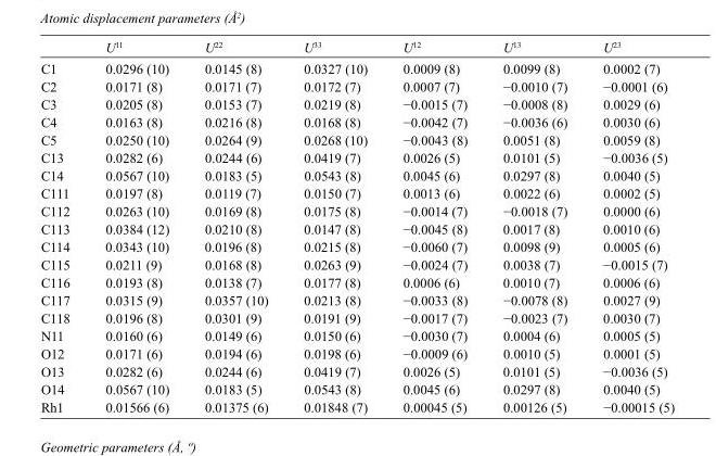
<table><thead><tr><td></td><td>U<sup>11</sup></td><td>U<sup>22</sup></td><td>U<sup>33</sup></td><td>U<sup>12</sup></td><td>U<sup>13</sup></td><td>U<sup>23</sup></td></tr></thead><tbody><tr><td>C1</td><td>0.0296 (10)</td><td>0.0145 (8)</td><td>0.0327 (10)</td><td>0.0009 (8)</td><td>0.0099 (8)</td><td>0.0002 (7)</td></tr><tr><td>C2</td><td>0.0171 (8)</td><td>0.0171 (7)</td><td>0.0172 (7)</td><td>0.0007 (7)</td><td>−0.0010 (7)</td><td>−0.0001 (6)</td></tr><tr><td>C3</td><td>0.0205 (8)</td><td>0.0153 (7)</td><td>0.0219 (8)</td><td>−0.0015 (7)</td><td>−0.0008 (8)</td><td>0.0029 (6)</td></tr><tr><td>C4</td><td>0.0163 (8)</td><td>0.0216 (8)</td><td>0.0168 (8)</td><td>−0.0042 (7)</td><td>−0.0036 (6)</td><td>0.0030 (6)</td></tr><tr><td>C5</td><td>0.0250 (10)</td><td>0.0264 (9)</td><td>0.0268 (10)</td><td>−0.0043 (8)</td><td>0.0051 (8)</td><td>0.0059 (8)</td></tr><tr><td>C13</td><td>0.0282 (6)</td><td>0.0244 (6)</td><td>0.0419 (7)</td><td>0.0026 (5)</td><td>0.0101 (5)</td><td>−0.0036 (5)</td></tr><tr><td>C14</td><td>0.0567 (10)</td><td>0.0183 (5)</td><td>0.0543 (8)</td><td>0.0045 (6)</td><td>0.0297 (8)</td><td>0.0040 (5)</td></tr><tr><td>C111</td><td>0.0197 (8)</td><td>0.0119 (7)</td><td>0.0150 (7)</td><td>0.0013 (6)</td><td>0.0022 (6)</td><td>0.0002 (5)</td></tr><tr><td>C112</td><td>0.0263 (10)</td><td>0.0169 (8)</td><td>0.0175 (8)</td><td>−0.0014 (7)</td><td>−0.0018 (7)</td><td>0.0000 (6)</td></tr><tr><td>C113</td><td>0.0384 (12)</td><td>0.0210 (8)</td><td>0.0147 (8)</td><td>−0.0045 (8)</td><td>0.0017 (8)</td><td>0.0010 (6)</td></tr><tr><td>C114</td><td>0.0343 (10)</td><td>0.0196 (8)</td><td>0.0215 (8)</td><td>−0.0060 (7)</td><td>0.0098 (9)</td><td>0.0005 (6)</td></tr><tr><td>C115</td><td>0.0211 (9)</td><td>0.0168 (8)</td><td>0.0263 (9)</td><td>−0.0024 (7)</td><td>0.0038 (7)</td><td>−0.0015 (7)</td></tr><tr><td>C116</td><td>0.0193 (8)</td><td>0.0138 (7)</td><td>0.0177 (8)</td><td>0.0006 (6)</td><td>0.0010 (7)</td><td>0.0006 (6)</td></tr><tr><td>C117</td><td>0.0315 (9)</td><td>0.0357 (10)</td><td>0.0213 (8)</td><td>−0.0033 (8)</td><td>−0.0078 (8)</td><td>0.0027 (9)</td></tr><tr><td>C118</td><td>0.0196 (8)</td><td>0.0301 (9)</td><td>0.0191 (9)</td><td>−0.0017 (7)</td><td>−0.0023 (7)</td><td>0.0030 (7)</td></tr><tr><td>N11</td><td>0.0160 (6)</td><td>0.0149 (6)</td><td>0.0150 (6)</td><td>−0.0030 (7)</td><td>0.0004 (6)</td><td>0.0005 (5)</td></tr><tr><td>O12</td><td>0.0171 (6)</td><td>0.0194 (6)</td><td>0.0198 (6)</td><td>−0.0009 (6)</td><td>0.0010 (5)</td><td>0.0001 (5)</td></tr><tr><td>O13</td><td>0.0282 (6)</td><td>0.0244 (6)</td><td>0.0419 (7)</td><td>0.0026 (5)</td><td>0.0101 (5)</td><td>−0.0036 (5)</td></tr><tr><td>O14</td><td>0.0567 (10)</td><td>0.0183 (5)</td><td>0.0543 (8)</td><td>0.0045 (6)</td><td>0.0297 (8)</td><td>0.0040 (5)</td></tr><tr><td>Rh1</td><td>0.01566 (6)</td><td>0.01375 (6)</td><td>0.01848 (7)</td><td>0.00045 (5)</td><td>0.00126 (5)</td><td>−0.00015 (5)</td></tr></tbody></table>